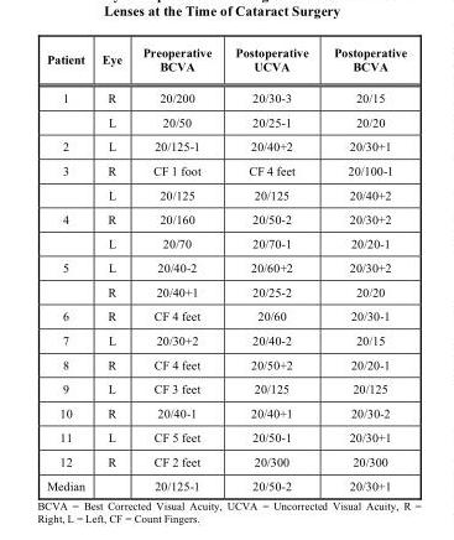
<table><thead><tr><td>Patient</td><td>Eye</td><td>Preoperative BCVA</td><td>Postoperative UCVA</td><td>Postoperative BCVA</td></tr></thead><tbody><tr><td rowspan="2">1</td><td>R</td><td>20/200</td><td>20/30-3</td><td>20/15</td></tr><tr><td>L</td><td>20/50</td><td>20/25-1</td><td>20/20</td></tr><tr><td>2</td><td>L</td><td>20/125-1</td><td>20/40+2</td><td>20/30+1</td></tr><tr><td rowspan="2">3</td><td>R</td><td>CF 1 foot</td><td>CF 4 feet</td><td>20/100-1</td></tr><tr><td>L</td><td>20/125</td><td>20/125</td><td>20/40+2</td></tr><tr><td rowspan="2">4</td><td>R</td><td>20/160</td><td>20/50-2</td><td>20/30+2</td></tr><tr><td>L</td><td>20/70</td><td>20/70-1</td><td>20/20-1</td></tr><tr><td rowspan="2">5</td><td>L</td><td>20/40-2</td><td>20/60+2</td><td>20/30+2</td></tr><tr><td>R</td><td>20/40+1</td><td>20/25-2</td><td>20/20</td></tr><tr><td>6</td><td>R</td><td>CF 4 feet</td><td>20/60</td><td>20/30-1</td></tr><tr><td>7</td><td>L</td><td>20/30+2</td><td>20/40-2</td><td>20/15</td></tr><tr><td>8</td><td>R</td><td>CF 4 feet</td><td>20/50+2</td><td>20/20-1</td></tr><tr><td>9</td><td>L</td><td>CF 3 feet</td><td>20/125</td><td>20/125</td></tr><tr><td>10</td><td>R</td><td>20/40-1</td><td>20/40+1</td><td>20/30-2</td></tr><tr><td>11</td><td>L</td><td>CF 5 feet</td><td>20/50-1</td><td>20/30+1</td></tr><tr><td>12</td><td>R</td><td>CF 2 feet</td><td>20/300</td><td>20/300</td></tr><tr><td>Median</td><td></td><td>20/125-1</td><td>20/50-2</td><td>20/30+1</td></tr></tbody></table>